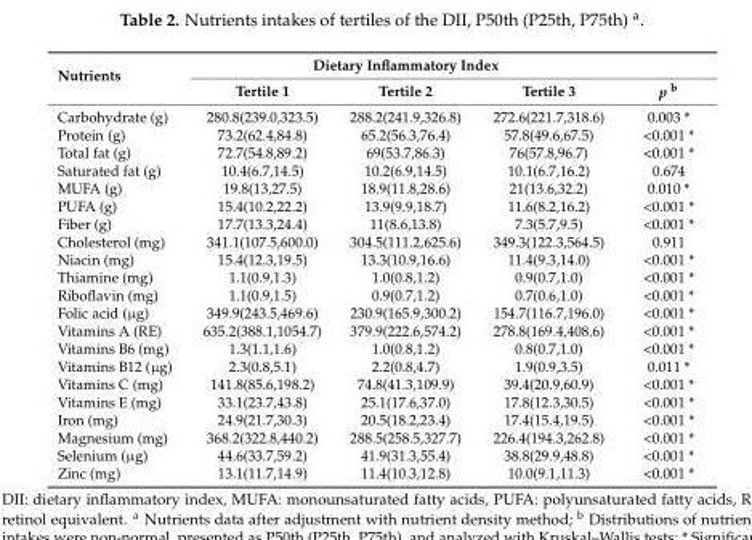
<table><thead><tr><td rowspan="2">Nutrients</td><td colspan="3">Dietary Inflammatory Index</td><td rowspan="2">p <sup>b</sup></td></tr><tr><td>Tertile 1</td><td>Tertile 2</td><td>Tertile 3</td></tr></thead><tbody><tr><td>Carbohydrate (g)</td><td>280.8(239.0,323.5)</td><td>288.2(241.9,326.8)</td><td>272.6(221.7,318.6)</td><td>0.003 *</td></tr><tr><td>Protein (g)</td><td>73.2(62.4,84.8)</td><td>65.2(56.3,76.4)</td><td>57.8(49.6,67.5)</td><td>&lt;0.001 *</td></tr><tr><td>Total fat (g)</td><td>72.7(54.8,89.2)</td><td>69(53.7,86.3)</td><td>76(57.8,96.7)</td><td>&lt;0.001 *</td></tr><tr><td>Saturated fat (g)</td><td>10.4(6.7,14.5)</td><td>10.2(6.9,14.5)</td><td>10.1(6.7,16.2)</td><td>0.674</td></tr><tr><td>MUFA (g)</td><td>19.8(13,27.5)</td><td>18.9(11.8,28.6)</td><td>21(13.6,32.2)</td><td>0.010 *</td></tr><tr><td>PUFA (g)</td><td>15.4(10.2,22.2)</td><td>13.9(9.9,18.7)</td><td>11.6(8.2,16.2)</td><td>&lt;0.001 *</td></tr><tr><td>Fiber (g)</td><td>17.7(13.3,24.4)</td><td>11(8.6,13.8)</td><td>7.3(5.7,9.5)</td><td>&lt;0.001 *</td></tr><tr><td>Cholesterol (mg)</td><td>341.1(107.5,600.0)</td><td>304.5(111.2,625.6)</td><td>349.3(122.3,564.5)</td><td>0.911</td></tr><tr><td>Niacin (mg)</td><td>15.4(12.3,19.5)</td><td>13.3(10.9,16.6)</td><td>11.4(9.3,14.0)</td><td>&lt;0.001 *</td></tr><tr><td>Thiamine (mg)</td><td>1.1(0.9,1.3)</td><td>1.0(0.8,1.2)</td><td>0.9(0.7,1.0)</td><td>&lt;0.001 *</td></tr><tr><td>Riboflavin (mg)</td><td>1.1(0.9,1.5)</td><td>0.9(0.7,1.2)</td><td>0.7(0.6,1.0)</td><td>&lt;0.001 *</td></tr><tr><td>Folic acid (µg)</td><td>349.9(243.5,469.6)</td><td>230.9(165.9,300.2)</td><td>154.7(116.7,196.0)</td><td>&lt;0.001 *</td></tr><tr><td>Vitamins A (RE)</td><td>635.2(388.1,1054.7)</td><td>379.9(222.6,574.2)</td><td>278.8(169.4,408.6)</td><td>&lt;0.001 *</td></tr><tr><td>Vitamins B6 (mg)</td><td>1.3(1.1,1.6)</td><td>1.0(0.8,1.2)</td><td>0.8(0.7,1.0)</td><td>&lt;0.001 *</td></tr><tr><td>Vitamins B12 (µg)</td><td>2.3(0.8,5.1)</td><td>2.2(0.8,4.7)</td><td>1.9(0.9,3.5)</td><td>0.011 *</td></tr><tr><td>Vitamins C (mg)</td><td>141.8(85.6,198.2)</td><td>74.8(41.3,109.9)</td><td>39.4(20.9,60.9)</td><td>&lt;0.001 *</td></tr><tr><td>Vitamins E (mg)</td><td>33.1(23.7,43.8)</td><td>25.1(17.6,37.0)</td><td>17.8(12.3,30.5)</td><td>&lt;0.001 *</td></tr><tr><td>Iron (mg)</td><td>24.9(21.7,30.3)</td><td>20.5(18.2,23.4)</td><td>17.4(15.4,19.5)</td><td>&lt;0.001 *</td></tr><tr><td>Magnesium (mg)</td><td>368.2(322.8,440.2)</td><td>288.5(258.5,327.7)</td><td>226.4(194.3,262.8)</td><td>&lt;0.001 *</td></tr><tr><td>Selenium (µg)</td><td>44.6(33.7,59.2)</td><td>41.9(31.3,55.4)</td><td>38.8(29.9,48.8)</td><td>&lt;0.001 *</td></tr><tr><td>Zinc (mg)</td><td>13.1(11.7,14.9)</td><td>11.4(10.3,12.8)</td><td>10.0(9.1,11.3)</td><td>&lt;0.001 *</td></tr></tbody></table>